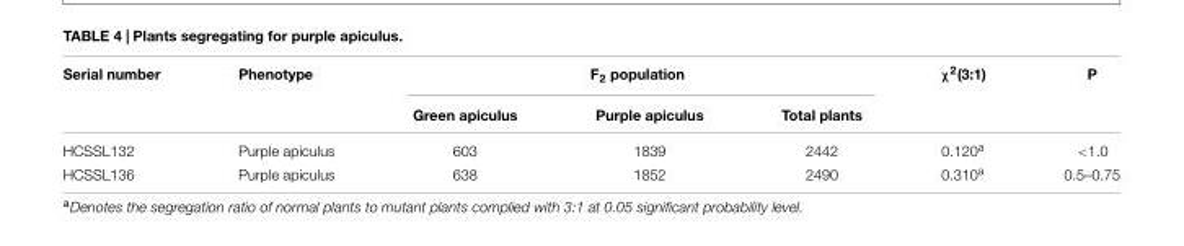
<table><thead><tr><td rowspan="2">Serial number</td><td rowspan="2">Phenotype</td><td colspan="3">F<sub>2</sub> population</td><td rowspan="2">χ<sup>2</sup>(3:1)</td><td rowspan="2">P</td></tr><tr><td>Green apiculus</td><td>Purple apiculus</td><td>Total plants</td></tr></thead><tbody><tr><td>HCSSL132</td><td>Purple apiculus</td><td>603</td><td>1839</td><td>2442</td><td>0.120<sup>a</sup></td><td>&lt;1.0</td></tr><tr><td>HCSSL136</td><td>Purple apiculus</td><td>638</td><td>1852</td><td>2490</td><td>0.310<sup>a</sup></td><td>0.5–0.75</td></tr></tbody></table>